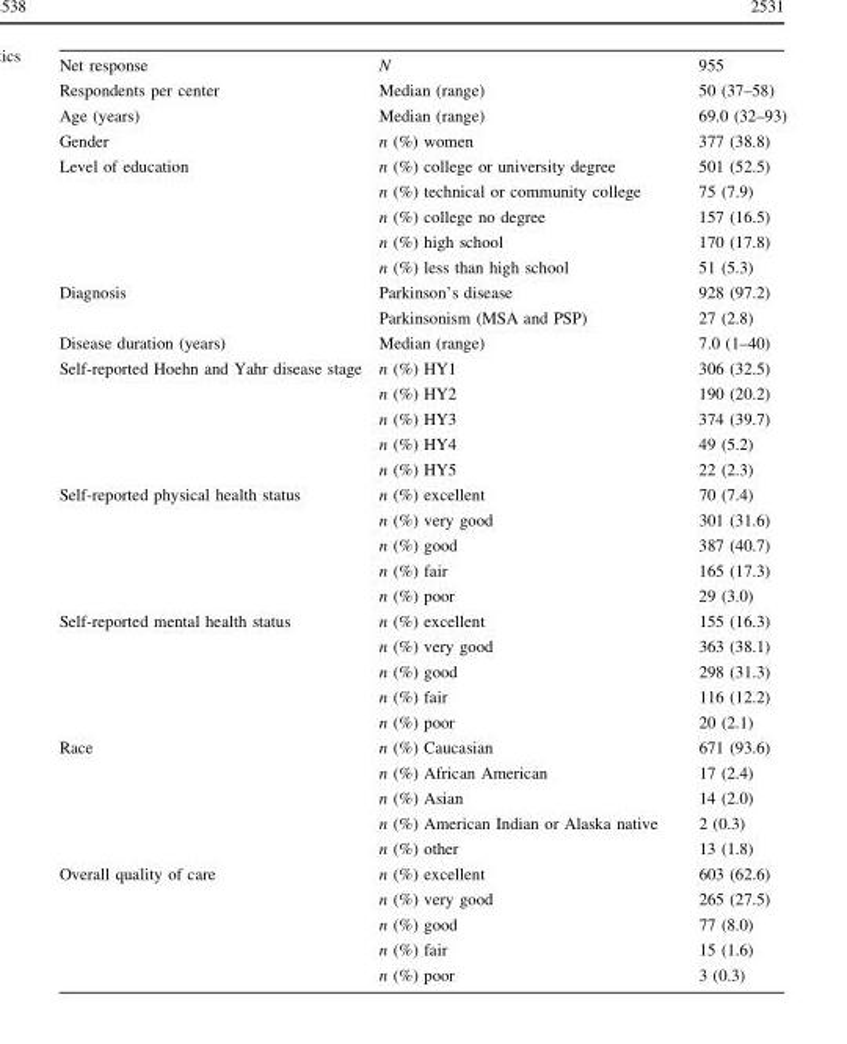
<table><tbody><tr><td>Net response</td><td>N</td><td>955</td></tr><tr><td>Respondents per center</td><td>Median (range)</td><td>50 (37–58)</td></tr><tr><td>Age (years)</td><td>Median (range)</td><td>69.0 (32–93)</td></tr><tr><td>Gender</td><td>n (%) women</td><td>377 (38.8)</td></tr><tr><td rowspan="5">Level of education</td><td>n (%) college or university degree</td><td>501 (52.5)</td></tr><tr><td>n (%) technical or community college</td><td>75 (7.9)</td></tr><tr><td>n (%) college no degree</td><td>157 (16.5)</td></tr><tr><td>n (%) high school</td><td>170 (17.8)</td></tr><tr><td>n (%) less than high school</td><td>51 (5.3)</td></tr><tr><td rowspan="2">Diagnosis</td><td>Parkinson’s disease</td><td>928 (97.2)</td></tr><tr><td>Parkinsonism (MSA and PSP)</td><td>27 (2.8)</td></tr><tr><td>Disease duration (years)</td><td>Median (range)</td><td>7.0 (1–40)</td></tr><tr><td rowspan="5">Self-reported Hoehn and Yahr disease stage</td><td>n (%) HY1</td><td>306 (32.5)</td></tr><tr><td>n (%) HY2</td><td>190 (20.2)</td></tr><tr><td>n (%) HY3</td><td>374 (39.7)</td></tr><tr><td>n (%) HY4</td><td>49 (5.2)</td></tr><tr><td>n (%) HY5</td><td>22 (2.3)</td></tr><tr><td rowspan="5">Self-reported physical health status</td><td>n (%) excellent</td><td>70 (7.4)</td></tr><tr><td>n (%) very good</td><td>301 (31.6)</td></tr><tr><td>n (%) good</td><td>387 (40.7)</td></tr><tr><td>n (%) fair</td><td>165 (17.3)</td></tr><tr><td>n (%) poor</td><td>29 (3.0)</td></tr><tr><td rowspan="5">Self-reported mental health status</td><td>n (%) excellent</td><td>155 (16.3)</td></tr><tr><td>n (%) very good</td><td>363 (38.1)</td></tr><tr><td>n (%) good</td><td>298 (31.3)</td></tr><tr><td>n (%) fair</td><td>116 (12.2)</td></tr><tr><td>n (%) poor</td><td>20 (2.1)</td></tr><tr><td rowspan="5">Race</td><td>n (%) Caucasian</td><td>671 (93.6)</td></tr><tr><td>n (%) African American</td><td>17 (2.4)</td></tr><tr><td>n (%) Asian</td><td>14 (2.0)</td></tr><tr><td>n (%) American Indian or Alaska native</td><td>2 (0.3)</td></tr><tr><td>n (%) other</td><td>13 (1.8)</td></tr><tr><td rowspan="5">Overall quality of care</td><td>n (%) excellent</td><td>603 (62.6)</td></tr><tr><td>n (%) very good</td><td>265 (27.5)</td></tr><tr><td>n (%) good</td><td>77 (8.0)</td></tr><tr><td>n (%) fair</td><td>15 (1.6)</td></tr><tr><td>n (%) poor</td><td>3 (0.3)</td></tr></tbody></table>